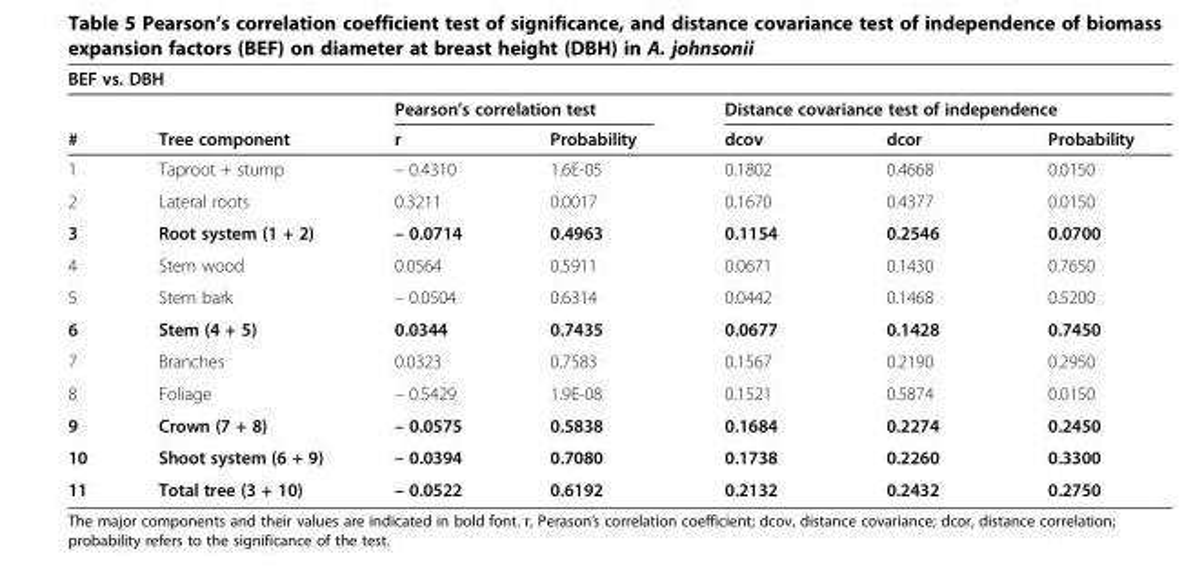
<table><thead><tr><td colspan="7">BEF vs. DBH</td></tr><tr><td rowspan="2">#</td><td rowspan="2">Tree component</td><td colspan="2">Pearson’s correlation test</td><td colspan="3">Distance covariance test of independence</td></tr><tr><td>r</td><td>Probability</td><td>dcov</td><td>dcor</td><td>Probability</td></tr></thead><tbody><tr><td>1</td><td>Taproot + stump</td><td>– 0.4310</td><td>1.6E-05</td><td>0.1802</td><td>0.4668</td><td>0.0150</td></tr><tr><td>2</td><td>Lateral roots</td><td>0.3211</td><td>0.0017</td><td>0.1670</td><td>0.4377</td><td>0.0150</td></tr><tr><td>3</td><td>Root system (1 + 2)</td><td>– 0.0714</td><td>0.4963</td><td>0.1154</td><td>0.2546</td><td>0.0700</td></tr><tr><td>4</td><td>Stem wood</td><td>0.0564</td><td>0.5911</td><td>0.0671</td><td>0.1430</td><td>0.7650</td></tr><tr><td>5</td><td>Stem bark</td><td>– 0.0504</td><td>0.6314</td><td>0.0442</td><td>0.1468</td><td>0.5200</td></tr><tr><td>6</td><td>Stem (4 + 5)</td><td>0.0344</td><td>0.7435</td><td>0.0677</td><td>0.1428</td><td>0.7450</td></tr><tr><td>7</td><td>Branches</td><td>0.0323</td><td>0.7583</td><td>0.1567</td><td>0.2190</td><td>0.2950</td></tr><tr><td>8</td><td>Foliage</td><td>– 0.5429</td><td>1.9E-08</td><td>0.1521</td><td>0.5874</td><td>0.0150</td></tr><tr><td>9</td><td>Crown (7 + 8)</td><td>– 0.0575</td><td>0.5838</td><td>0.1684</td><td>0.2274</td><td>0.2450</td></tr><tr><td>10</td><td>Shoot system (6 + 9)</td><td>– 0.0394</td><td>0.7080</td><td>0.1738</td><td>0.2260</td><td>0.3300</td></tr><tr><td>11</td><td>Total tree (3 + 10)</td><td>– 0.0522</td><td>0.6192</td><td>0.2132</td><td>0.2432</td><td>0.2750</td></tr></tbody></table>